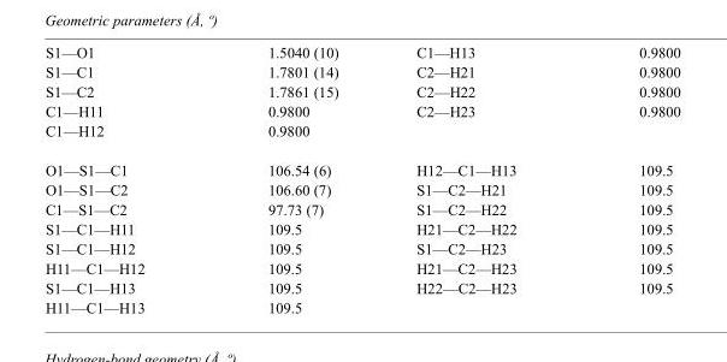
<table><tbody><tr><td>S1—O1</td><td>1.5040 (10)</td><td>C1—H13</td><td>0.9800</td></tr><tr><td>S1—C1</td><td>1.7801 (14)</td><td>C2—H21</td><td>0.9800</td></tr><tr><td>S1—C2</td><td>1.7861 (15)</td><td>C2—H22</td><td>0.9800</td></tr><tr><td>C1—H11</td><td>0.9800</td><td>C2—H23</td><td>0.9800</td></tr><tr><td>C1—H12</td><td>0.9800</td><td></td><td></td></tr><tr><td>O1—S1—C1</td><td>106.54 (6)</td><td>H12—C1—H13</td><td>109.5</td></tr><tr><td>O1—S1—C2</td><td>106.60 (7)</td><td>S1—C2—H21</td><td>109.5</td></tr><tr><td>C1—S1—C2</td><td>97.73 (7)</td><td>S1—C2—H22</td><td>109.5</td></tr><tr><td>S1—C1—H11</td><td>109.5</td><td>H21—C2—H22</td><td>109.5</td></tr><tr><td>S1—C1—H12</td><td>109.5</td><td>S1—C2—H23</td><td>109.5</td></tr><tr><td>H11—C1—H12</td><td>109.5</td><td>H21—C2—H23</td><td>109.5</td></tr><tr><td>S1—C1—H13</td><td>109.5</td><td>H22—C2—H23</td><td>109.5</td></tr><tr><td>H11—C1—H13</td><td>109.5</td><td></td><td></td></tr></tbody></table>